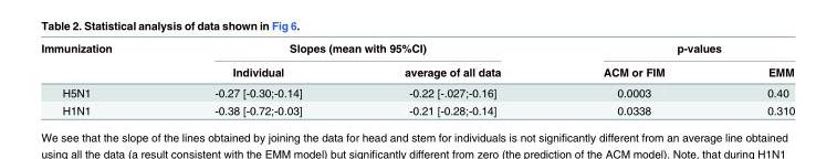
<table><thead><tr><td rowspan="2">Immunization</td><td colspan="2">Slopes (mean with 95%CI)</td><td colspan="2">p-values</td></tr><tr><td>Individual</td><td>average of all data</td><td>ACM or FIM</td><td>EMM</td></tr></thead><tbody><tr><td>H5N1</td><td>-0.27 [-0.30;-0.14]</td><td>-0.22 [-.027;-0.16]</td><td>0.0003</td><td>0.40</td></tr><tr><td>H1N1</td><td>-0.38 [-0.72;-0.03]</td><td>-0.21 [-0.28;-0.14]</td><td>0.0338</td><td>0.310</td></tr></tbody></table>